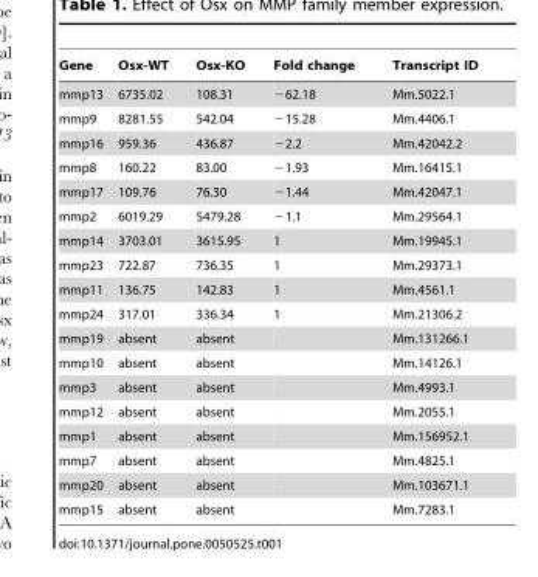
<table><thead><tr><td>Gene</td><td>Osx-WT</td><td>Osx-KO</td><td>Fold change</td><td>Transcript ID</td></tr></thead><tbody><tr><td>mmp13</td><td>6735.02</td><td>108.31</td><td>−62.18</td><td>Mm.5022.1</td></tr><tr><td>mmp9</td><td>8281.55</td><td>542.04</td><td>−15.28</td><td>Mm.4406.1</td></tr><tr><td>mmp16</td><td>959.36</td><td>436.87</td><td>−2.2</td><td>Mm.42042.2</td></tr><tr><td>mmp8</td><td>160.22</td><td>83.00</td><td>−1.93</td><td>Mm.16415.1</td></tr><tr><td>mmp17</td><td>109.76</td><td>76.30</td><td>−1.44</td><td>Mm.42047.1</td></tr><tr><td>mmp2</td><td>6019.29</td><td>5479.28</td><td>−1.1</td><td>Mm.29564.1</td></tr><tr><td>mmp14</td><td>3703.01</td><td>3615.95</td><td>1</td><td>Mm.19945.1</td></tr><tr><td>mmp23</td><td>722.87</td><td>736.35</td><td>1</td><td>Mm.29373.1</td></tr><tr><td>mmp11</td><td>136.75</td><td>142.83</td><td>1</td><td>Mm.4561.1</td></tr><tr><td>mmp24</td><td>317.01</td><td>336.34</td><td>1</td><td>Mm.21306.2</td></tr><tr><td>mmp19</td><td>absent</td><td>absent</td><td></td><td>Mm.131266.1</td></tr><tr><td>mmp10</td><td>absent</td><td>absent</td><td></td><td>Mm.14126.1</td></tr><tr><td>mmp3</td><td>absent</td><td>absent</td><td></td><td>Mm.4993.1</td></tr><tr><td>mmp12</td><td>absent</td><td>absent</td><td></td><td>Mm.2055.1</td></tr><tr><td>mmp1</td><td>absent</td><td>absent</td><td></td><td>Mm.156952.1</td></tr><tr><td>mmp7</td><td>absent</td><td>absent</td><td></td><td>Mm.4825.1</td></tr><tr><td>mmp20</td><td>absent</td><td>absent</td><td></td><td>Mm.103671.1</td></tr><tr><td>mmp15</td><td>absent</td><td>absent</td><td></td><td>Mm.7283.1</td></tr></tbody></table>